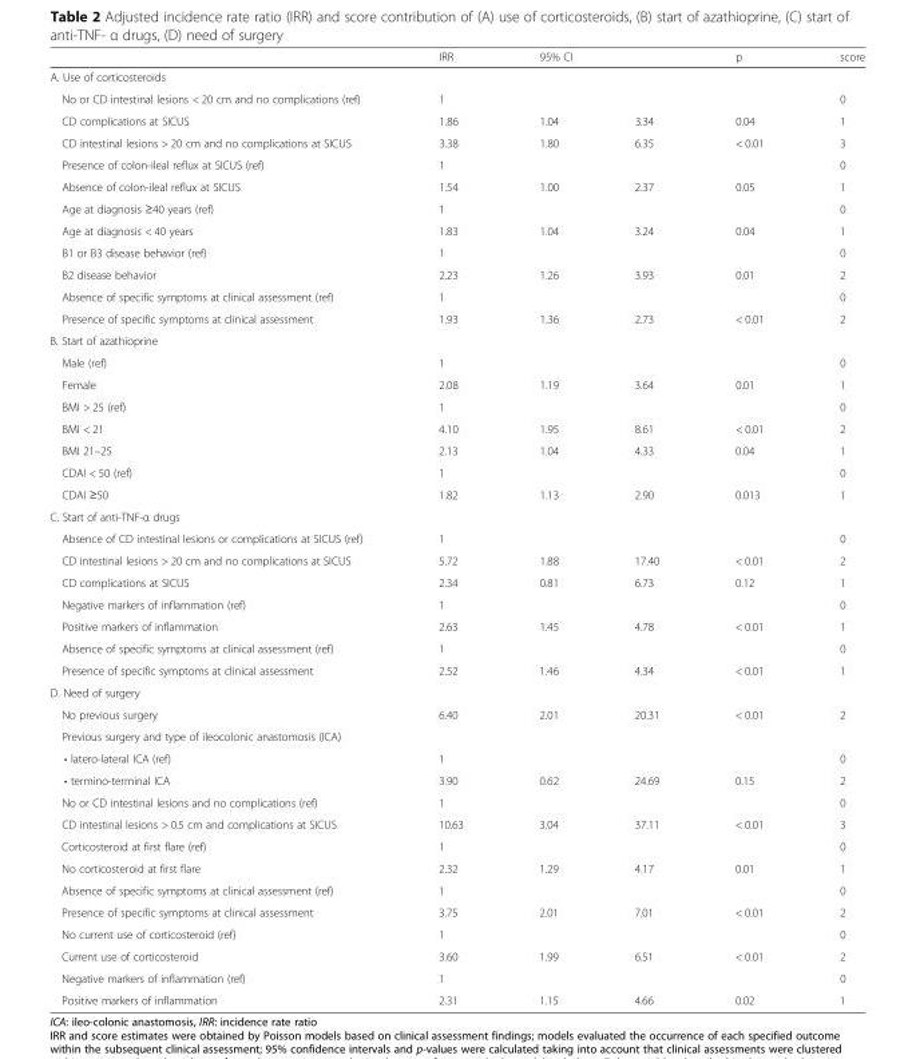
<table><thead><tr><td></td><td>IRR</td><td colspan="2">95% CI</td><td>p</td><td>score</td></tr><tr><td colspan="6">A. Use of corticosteroids</td></tr><tr><td>No or CD intestinal lesions &lt; 20 cm and no complications (ref)</td><td>1</td><td></td><td></td><td></td><td>0</td></tr></thead><tbody><tr><td>CD complications at SICUS</td><td>1.86</td><td>1.04</td><td>3.34</td><td>0.04</td><td>1</td></tr><tr><td>CD intestinal lesions &gt; 20 cm and no complications at SICUS</td><td>3.38</td><td>1.80</td><td>6.35</td><td>&lt; 0.01</td><td>3</td></tr><tr><td>Presence of colon-ileal reflux at SICUS (ref)</td><td>1</td><td></td><td></td><td></td><td>0</td></tr><tr><td>Absence of colon-ileal reflux at SICUS</td><td>1.54</td><td>1.00</td><td>2.37</td><td>0.05</td><td>1</td></tr><tr><td>Age at diagnosis ≥40 years (ref)</td><td>1</td><td></td><td></td><td></td><td>0</td></tr><tr><td>Age at diagnosis &lt; 40 years</td><td>1.83</td><td>1.04</td><td>3.24</td><td>0.04</td><td>1</td></tr><tr><td>B1 or B3 disease behavior (ref)</td><td>1</td><td></td><td></td><td></td><td>0</td></tr><tr><td>B2 disease behavior</td><td>2.23</td><td>1.26</td><td>3.93</td><td>0.01</td><td>2</td></tr><tr><td>Absence of specific symptoms at clinical assessment (ref)</td><td>1</td><td></td><td></td><td></td><td>0</td></tr><tr><td>Presence of specific symptoms at clinical assessment</td><td>1.93</td><td>1.36</td><td>2.73</td><td>&lt; 0.01</td><td>2</td></tr><tr><td colspan="6">B. Start of azathioprine</td></tr><tr><td>Male (ref)</td><td>1</td><td></td><td></td><td></td><td>0</td></tr><tr><td>Female</td><td>2.08</td><td>1.19</td><td>3.64</td><td>0.01</td><td>1</td></tr><tr><td>BMI &gt; 25 (ref)</td><td>1</td><td></td><td></td><td></td><td>0</td></tr><tr><td>BMI &lt; 21</td><td>4.10</td><td>1.95</td><td>8.61</td><td>&lt; 0.01</td><td>2</td></tr><tr><td>BMI 21–25</td><td>2.13</td><td>1.04</td><td>4.33</td><td>0.04</td><td>1</td></tr><tr><td>CDAI &lt; 50 (ref)</td><td>1</td><td></td><td></td><td></td><td>0</td></tr><tr><td>CDAI ≥50</td><td>1.82</td><td>1.13</td><td>2.90</td><td>0.013</td><td>1</td></tr><tr><td colspan="6">C. Start of anti-TNF-α drugs</td></tr><tr><td>Absence of CD intestinal lesions or complications at SICUS (ref)</td><td>1</td><td></td><td></td><td></td><td>0</td></tr><tr><td>CD intestinal lesions &gt; 20 cm and no complications at SICUS</td><td>5.72</td><td>1.88</td><td>17.40</td><td>&lt; 0.01</td><td>2</td></tr><tr><td>CD complications at SICUS</td><td>2.34</td><td>0.81</td><td>6.73</td><td>0.12</td><td>1</td></tr><tr><td>Negative markers of inflammation (ref)</td><td>1</td><td></td><td></td><td></td><td>0</td></tr><tr><td>Positive markers of inflammation</td><td>2.63</td><td>1.45</td><td>4.78</td><td>&lt; 0.01</td><td>1</td></tr><tr><td>Absence of specific symptoms at clinical assessment (ref)</td><td>1</td><td></td><td></td><td></td><td>0</td></tr><tr><td>Presence of specific symptoms at clinical assessment</td><td>2.52</td><td>1.46</td><td>4.34</td><td>&lt; 0.01</td><td>1</td></tr><tr><td colspan="6">D. Need of surgery</td></tr><tr><td>No previous surgery</td><td>6.40</td><td>2.01</td><td>20.31</td><td>&lt; 0.01</td><td>2</td></tr><tr><td colspan="6">Previous surgery and type of ileocolonic anastomosis (ICA)</td></tr><tr><td>• latero-lateral ICA (ref)</td><td>1</td><td></td><td></td><td></td><td>0</td></tr><tr><td>• termino-terminal ICA</td><td>3.90</td><td>0.62</td><td>24.69</td><td>0.15</td><td>2</td></tr><tr><td>No or CD intestinal lesions and no complications (ref)</td><td>1</td><td></td><td></td><td></td><td>0</td></tr><tr><td>CD intestinal lesions &gt; 0.5 cm and complications at SICUS</td><td>10.63</td><td>3.04</td><td>37.11</td><td>&lt; 0.01</td><td>3</td></tr><tr><td>Corticosteroid at first flare (ref)</td><td>1</td><td></td><td></td><td></td><td>0</td></tr><tr><td>No corticosteroid at first flare</td><td>2.32</td><td>1.29</td><td>4.17</td><td>0.01</td><td>1</td></tr><tr><td>Absence of specific symptoms at clinical assessment (ref)</td><td>1</td><td></td><td></td><td></td><td>0</td></tr><tr><td>Presence of specific symptoms at clinical assessment</td><td>3.75</td><td>2.01</td><td>7.01</td><td>&lt; 0.01</td><td>2</td></tr><tr><td>No current use of corticosteroid (ref)</td><td>1</td><td></td><td></td><td></td><td>0</td></tr><tr><td>Current use of corticosteroid</td><td>3.60</td><td>1.99</td><td>6.51</td><td>&lt; 0.01</td><td>2</td></tr><tr><td>Negative markers of inflammation (ref)</td><td>1</td><td></td><td></td><td></td><td>0</td></tr><tr><td>Positive markers of inflammation</td><td>2.31</td><td>1.15</td><td>4.66</td><td>0.02</td><td>1</td></tr></tbody></table>